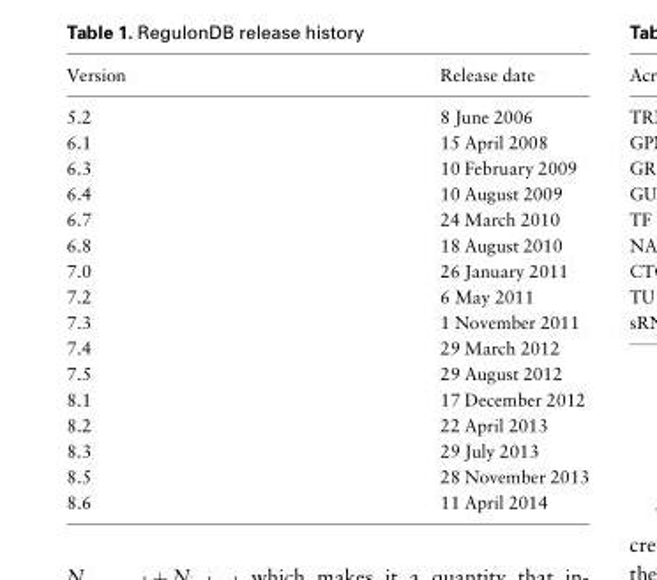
<table><thead><tr><td>Version</td><td>Release date</td></tr></thead><tbody><tr><td>5.2</td><td>8 June 2006</td></tr><tr><td>6.1</td><td>15 April 2008</td></tr><tr><td>6.3</td><td>10 February 2009</td></tr><tr><td>6.4</td><td>10 August 2009</td></tr><tr><td>6.7</td><td>24 March 2010</td></tr><tr><td>6.8</td><td>18 August 2010</td></tr><tr><td>7.0</td><td>26 January 2011</td></tr><tr><td>7.2</td><td>6 May 2011</td></tr><tr><td>7.3</td><td>1 November 2011</td></tr><tr><td>7.4</td><td>29 March 2012</td></tr><tr><td>7.5</td><td>29 August 2012</td></tr><tr><td>8.1</td><td>17 December 2012</td></tr><tr><td>8.2</td><td>22 April 2013</td></tr><tr><td>8.3</td><td>29 July 2013</td></tr><tr><td>8.5</td><td>28 November 2013</td></tr><tr><td>8.6</td><td>11 April 2014</td></tr></tbody></table>